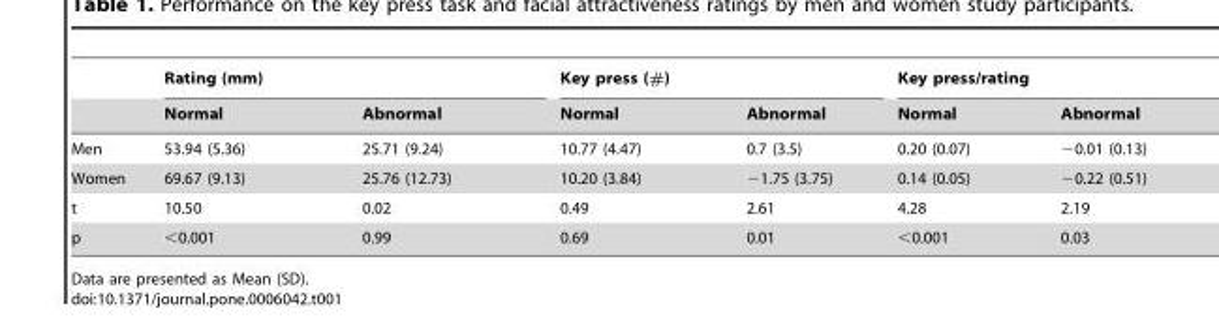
<table><thead><tr><td rowspan="2"></td><td colspan="2">Rating (mm)</td><td colspan="2">Key press (#)</td><td colspan="2">Key press/rating</td></tr><tr><td>Normal</td><td>Abnormal</td><td>Normal</td><td>Abnormal</td><td>Normal</td><td>Abnormal</td></tr></thead><tbody><tr><td>Men</td><td>53.94 (5.36)</td><td>25.71 (9.24)</td><td>10.77 (4.47)</td><td>0.7 (3.5)</td><td>0.20 (0.07)</td><td>−0.01 (0.13)</td></tr><tr><td>Women</td><td>69.67 (9.13)</td><td>25.76 (12.73)</td><td>10.20 (3.84)</td><td>−1.75 (3.75)</td><td>0.14 (0.05)</td><td>−0.22 (0.51)</td></tr><tr><td>t</td><td>10.50</td><td>0.02</td><td>0.49</td><td>2.61</td><td>4.28</td><td>2.19</td></tr><tr><td>p</td><td>&lt;0.001</td><td>0.99</td><td>0.69</td><td>0.01</td><td>&lt;0.001</td><td>0.03</td></tr></tbody></table>